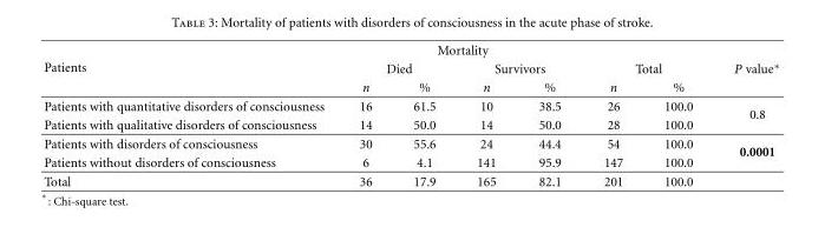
<table><thead><tr><td rowspan="3">Patients</td><td colspan="4">Mortality</td><td></td><td></td><td rowspan="3">P value∗</td></tr><tr><td colspan="2">Died</td><td colspan="2">Survivors</td><td colspan="2">Total</td></tr><tr><td>n</td><td>%</td><td>n</td><td>%</td><td>n</td><td>%</td></tr></thead><tbody><tr><td>Patients with quantitative disorders of consciousness</td><td>16</td><td>61.5</td><td>10</td><td>38.5</td><td>26</td><td>100.0</td><td rowspan="2">0.8</td></tr><tr><td>Patients with qualitative disorders of consciousness</td><td>14</td><td>50.0</td><td>14</td><td>50.0</td><td>28</td><td>100.0</td></tr><tr><td>Patients with disorders of consciousness</td><td>30</td><td>55.6</td><td>24</td><td>44.4</td><td>54</td><td>100.0</td><td rowspan="2">0.0001</td></tr><tr><td>Patients without disorders of consciousness</td><td>6</td><td>4.1</td><td>141</td><td>95.9</td><td>147</td><td>100.0</td></tr><tr><td>Total</td><td>36</td><td>17.9</td><td>165</td><td>82.1</td><td>201</td><td>100.0</td><td></td></tr></tbody></table>